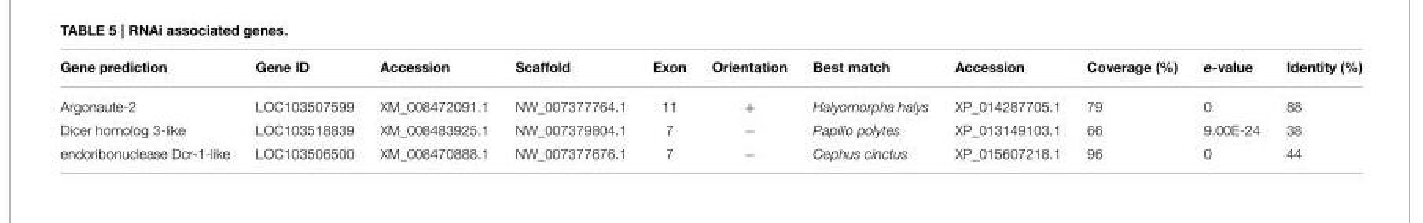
<table><thead><tr><td>Gene prediction</td><td>Gene ID</td><td>Accession</td><td>Scaffold</td><td>Exon</td><td>Orientation</td><td>Best match</td><td>Accession</td><td>Coverage (%)</td><td>e-value</td><td>Identity (%)</td></tr></thead><tbody><tr><td>Argonaute-2</td><td>LOC103507599</td><td>XM_008472091.1</td><td>NW_007377764.1</td><td>11</td><td>+</td><td>Halyomorpha halys</td><td>XP_014287705.1</td><td>79</td><td>0</td><td>88</td></tr><tr><td>Dicer homolog 3-like</td><td>LOC103518839</td><td>XM_008483925.1</td><td>NW_007379804.1</td><td>7</td><td>−</td><td>Papilio polytes</td><td>XP_013149103.1</td><td>66</td><td>9.00E-24</td><td>38</td></tr><tr><td>endoribonuclease Dcr-1-like</td><td>LOC103506500</td><td>XM_008470888.1</td><td>NW_007377676.1</td><td>7</td><td>−</td><td>Cephus cinctus</td><td>XP_015607218.1</td><td>96</td><td>0</td><td>44</td></tr></tbody></table>